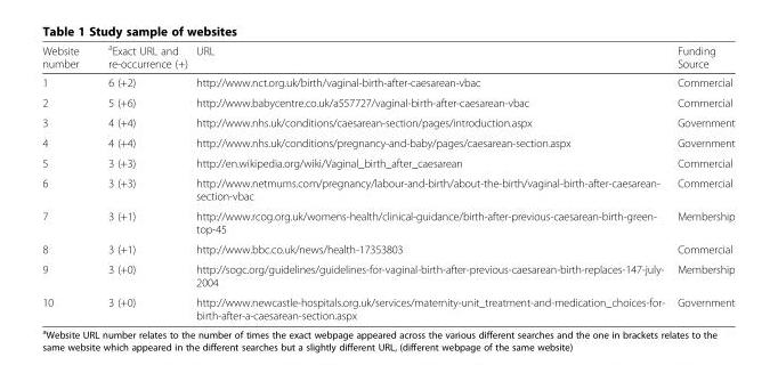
<table><thead><tr><td>Website number</td><td><sup>a</sup>Exact URL and re-occurrence (+)</td><td>URL</td><td>Funding Source</td></tr></thead><tbody><tr><td>1</td><td>6 (+2)</td><td>http://www.nct.org.uk/birth/vaginal-birth-after-caesarean-vbac</td><td>Commercial</td></tr><tr><td>2</td><td>5 (+6)</td><td>http://www.babycentre.co.uk/a557727/vaginal-birth-after-caesarean-vbac</td><td>Commercial</td></tr><tr><td>3</td><td>4 (+4)</td><td>http://www.nhs.uk/conditions/caesarean-section/pages/introduction.aspx</td><td>Government</td></tr><tr><td>4</td><td>4 (+4)</td><td>http://www.nhs.uk/conditions/pregnancy-and-baby/pages/caesarean-section.aspx</td><td>Government</td></tr><tr><td>5</td><td>3 (+3)</td><td>http://en.wikipedia.org/wiki/Vaginal_birth_after_caesarean</td><td>Commercial</td></tr><tr><td>6</td><td>3 (+3)</td><td>http://www.netmums.com/pregnancy/labour-and-birth/about-the-birth/vaginal-birth-after-caesarean- section-vbac</td><td>Commercial</td></tr><tr><td>7</td><td>3 (+1)</td><td>http://www.rcog.org.uk/womens-health/clinical-guidance/birth-after-previous-caesarean-birth-green- top-45</td><td>Membership</td></tr><tr><td>8</td><td>3 (+1)</td><td>http://www.bbc.co.uk/news/health-17353803</td><td>Commercial</td></tr><tr><td>9</td><td>3 (+0)</td><td>http://sogc.org/guidelines/guidelines-for-vaginal-birth-after-previous-caesarean-birth-replaces-147-july- 2004</td><td>Membership</td></tr><tr><td>10</td><td>3 (+0)</td><td>http://www.newcastle-hospitals.org.uk/services/maternity-unit_treatment-and-medication_choices-for- birth-after-a-caesarean-section.aspx</td><td>Government</td></tr></tbody></table>